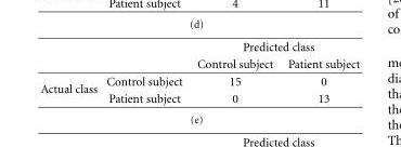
<table><thead><tr><td rowspan="2"></td><td rowspan="2"></td><td colspan="2">Predicted class</td></tr><tr><td>Control subject</td><td>Patient subject</td></tr></thead><tbody><tr><td rowspan="2">Actual class</td><td>Control subject</td><td>15</td><td>0</td></tr><tr><td>Patient subject</td><td>0</td><td>13</td></tr></tbody></table>